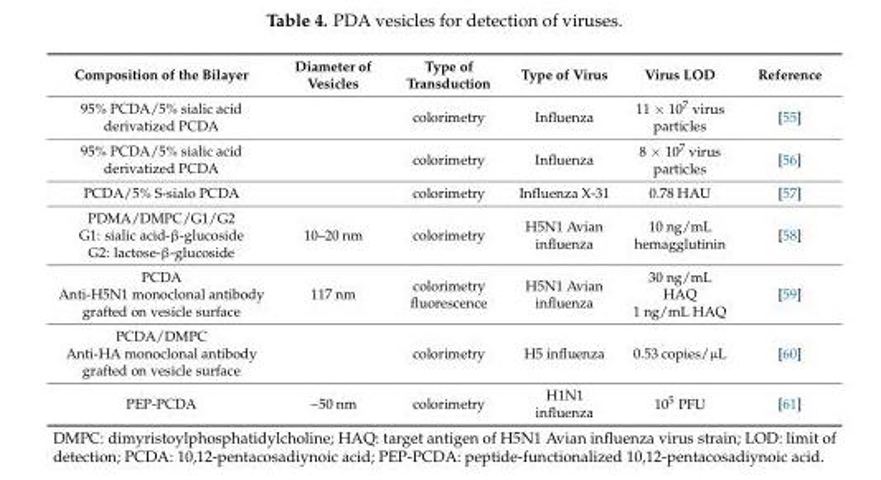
<table><thead><tr><td>Composition of the Bilayer</td><td>Diameter of Vesicles</td><td>Type of Transduction</td><td>Type of Virus</td><td>Virus LOD</td><td>Reference</td></tr></thead><tbody><tr><td>95% PCDA/5% sialic acid derivatized PCDA</td><td></td><td>colorimetry</td><td>Influenza</td><td>11 × 10<sup>7</sup> virus particles</td><td>[55]</td></tr><tr><td>95% PCDA/5% sialic acid derivatized PCDA</td><td></td><td>colorimetry</td><td>Influenza</td><td>8 × 10<sup>7</sup> virus particles</td><td>[56]</td></tr><tr><td>PCDA/5% S-sialo PCDA</td><td></td><td>colorimetry</td><td>Influenza X-31</td><td>0.78 HAU</td><td>[57]</td></tr><tr><td>PDMA/DMPC/G1/G2 G1: sialic acid-β-glucoside G2: lactose-β-glucoside</td><td>10–20 nm</td><td>colorimetry</td><td>H5N1 Avian influenza</td><td>10 ng/mL hemagglutinin</td><td>[58]</td></tr><tr><td>PCDA Anti-H5N1 monoclonal antibody grafted on vesicle surface</td><td>117 nm</td><td>colorimetry fluorescence</td><td>H5N1 Avian influenza</td><td>30 ng/mL HAQ 1 ng/mL HAQ</td><td>[59]</td></tr><tr><td>PCDA/DMPC Anti-HA monoclonal antibody grafted on vesicle surface</td><td></td><td>colorimetry</td><td>H5 influenza</td><td>0.53 copies/µL</td><td>[60]</td></tr><tr><td>PEP-PCDA</td><td>~50 nm</td><td>colorimetry</td><td>H1N1 influenza</td><td>10<sup>5</sup> PFU</td><td>[61]</td></tr></tbody></table>